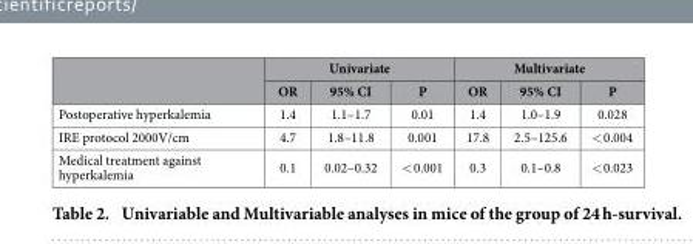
<table><thead><tr><td rowspan="2"></td><td colspan="3">Univariate</td><td colspan="3">Multivariate</td></tr><tr><td>OR</td><td>95% CI</td><td>P</td><td>OR</td><td>95% CI</td><td>P</td></tr></thead><tbody><tr><td>Postoperative hyperkalemia</td><td>1.4</td><td>1.1–1.7</td><td>0.01</td><td>1.4</td><td>1.0–1.9</td><td>0.028</td></tr><tr><td>IRE protocol 2000V/cm</td><td>4.7</td><td>1.8–11.8</td><td>0.001</td><td>17.8</td><td>2.5–125.6</td><td>&lt; 0.004</td></tr><tr><td>Medical treatment against hyperkalemia</td><td>0.1</td><td>0.02–0.32</td><td>&lt; 0.001</td><td>0.3</td><td>0.1–0.8</td><td>&lt; 0.023</td></tr></tbody></table>